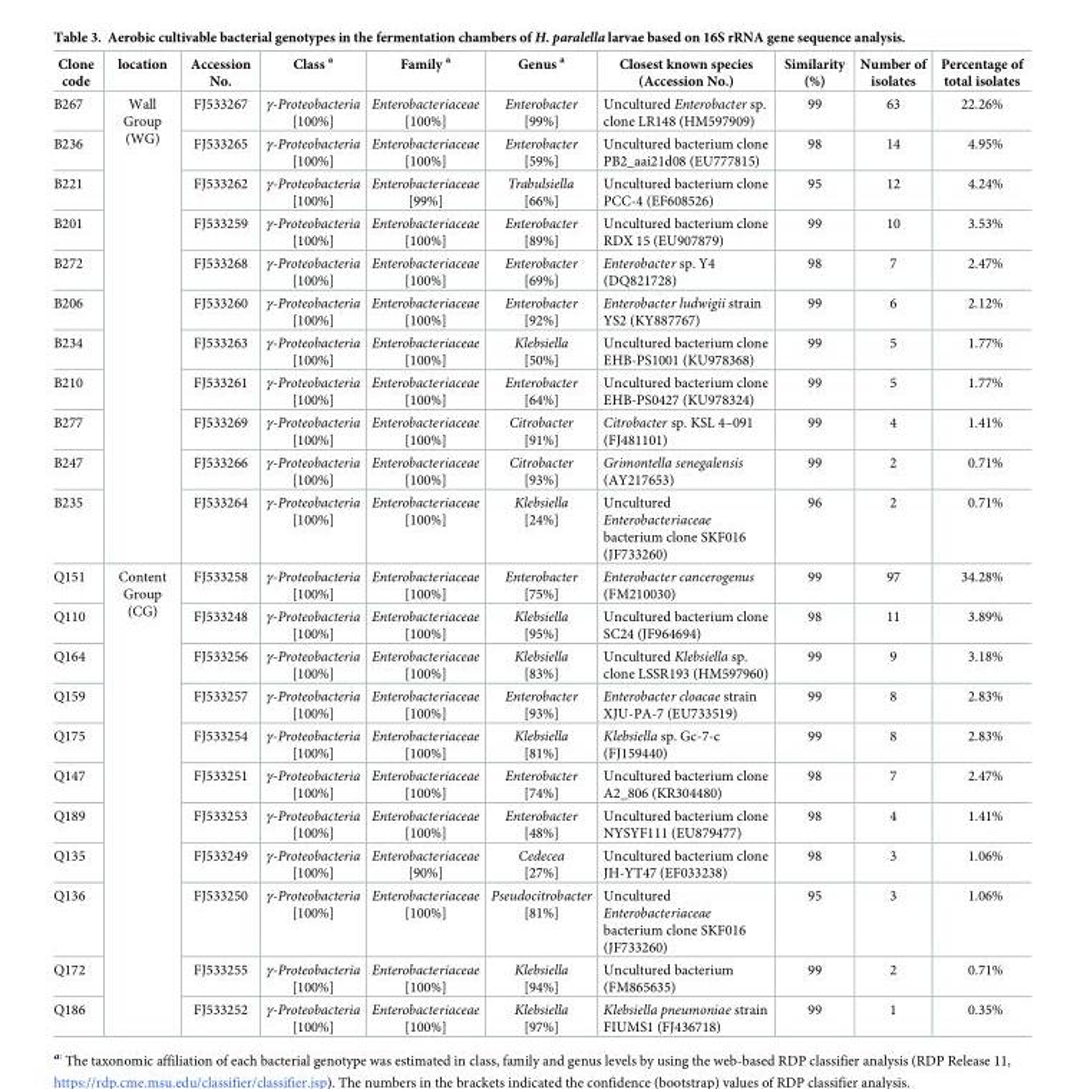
<table><thead><tr><td>Clone code</td><td>location</td><td>Accession No.</td><td>Class <sup>a</sup></td><td>Family <sup>a</sup></td><td>Genus <sup>a</sup></td><td>Closest known species (Accession No.)</td><td>Similarity (%)</td><td>Number of isolates</td><td>Percentage of total isolates</td></tr></thead><tbody><tr><td>B267</td><td rowspan="11">Wall Group (WG)</td><td>FJ533267</td><td>γ-Proteobacteria [100%]</td><td>Enterobacteriaceae [100%]</td><td>Enterobacter [99%]</td><td>Uncultured Enterobacter sp. clone LR148 (HM597909)</td><td>99</td><td>63</td><td>22.26%</td></tr><tr><td>B236</td><td>FJ533265</td><td>γ-Proteobacteria [100%]</td><td>Enterobacteriaceae [100%]</td><td>Enterobacter [59%]</td><td>Uncultured bacterium clone PB2_aai21d08 (EU777815)</td><td>98</td><td>14</td><td>4.95%</td></tr><tr><td>B221</td><td>FJ533262</td><td>γ-Proteobacteria [100%]</td><td>Enterobacteriaceae [99%]</td><td>Trabulsiella [66%]</td><td>Uncultured bacterium clone PCC-4 (EF608526)</td><td>95</td><td>12</td><td>4.24%</td></tr><tr><td>B201</td><td>FJ533259</td><td>γ-Proteobacteria [100%]</td><td>Enterobacteriaceae [100%]</td><td>Enterobacter [89%]</td><td>Uncultured bacterium clone RDX 15 (EU907879)</td><td>99</td><td>10</td><td>3.53%</td></tr><tr><td>B272</td><td>FJ533268</td><td>γ-Proteobacteria [100%]</td><td>Enterobacteriaceae [100%]</td><td>Enterobacter [69%]</td><td>Enterobacter sp. Y4 (DQ821728)</td><td>98</td><td>7</td><td>2.47%</td></tr><tr><td>B206</td><td>FJ533260</td><td>γ-Proteobacteria [100%]</td><td>Enterobacteriaceae [100%]</td><td>Enterobacter [92%]</td><td>Enterobacter ludwigii strain YS2 (KY887767)</td><td>99</td><td>6</td><td>2.12%</td></tr><tr><td>B234</td><td>FJ533263</td><td>γ-Proteobacteria [100%]</td><td>Enterobacteriaceae [100%]</td><td>Klebsiella [50%]</td><td>Uncultured bacterium clone EHB-PS1001 (KU978368)</td><td>99</td><td>5</td><td>1.77%</td></tr><tr><td>B210</td><td>FJ533261</td><td>γ-Proteobacteria [100%]</td><td>Enterobacteriaceae [100%]</td><td>Enterobacter [64%]</td><td>Uncultured bacterium clone EHB-PS0427 (KU978324)</td><td>99</td><td>5</td><td>1.77%</td></tr><tr><td>B277</td><td>FJ533269</td><td>γ-Proteobacteria [100%]</td><td>Enterobacteriaceae [100%]</td><td>Citrobacter [91%]</td><td>Citrobacter sp. KSL 4–091 (FJ481101)</td><td>99</td><td>4</td><td>1.41%</td></tr><tr><td>B247</td><td>FJ533266</td><td>γ-Proteobacteria [100%]</td><td>Enterobacteriaceae [100%]</td><td>Citrobacter [93%]</td><td>Grimontella senegalensis (AY217653)</td><td>99</td><td>2</td><td>0.71%</td></tr><tr><td>B235</td><td>FJ533264</td><td>γ-Proteobacteria [100%]</td><td>Enterobacteriaceae [100%]</td><td>Klebsiella [24%]</td><td>Uncultured Enterobacteriaceae bacterium clone SKF016 (JF733260)</td><td>96</td><td>2</td><td>0.71%</td></tr><tr><td>Q151</td><td rowspan="11">Content Group (CG)</td><td>FJ533258</td><td>γ-Proteobacteria [100%]</td><td>Enterobacteriaceae [100%]</td><td>Enterobacter [75%]</td><td>Enterobacter cancerogenus (FM210030)</td><td>99</td><td>97</td><td>34.28%</td></tr><tr><td>Q110</td><td>FJ533248</td><td>γ-Proteobacteria [100%]</td><td>Enterobacteriaceae [100%]</td><td>Klebsiella [95%]</td><td>Uncultured bacterium clone SC24 (JF964694)</td><td>98</td><td>11</td><td>3.89%</td></tr><tr><td>Q164</td><td>FJ533256</td><td>γ-Proteobacteria [100%]</td><td>Enterobacteriaceae [100%]</td><td>Klebsiella [83%]</td><td>Uncultured Klebsiella sp. clone LSSR193 (HM597960)</td><td>99</td><td>9</td><td>3.18%</td></tr><tr><td>Q159</td><td>FJ533257</td><td>γ-Proteobacteria [100%]</td><td>Enterobacteriaceae [100%]</td><td>Enterobacter [93%]</td><td>Enterobacter cloacae strain XJU-PA-7 (EU733519)</td><td>99</td><td>8</td><td>2.83%</td></tr><tr><td>Q175</td><td>FJ533254</td><td>γ-Proteobacteria [100%]</td><td>Enterobacteriaceae [100%]</td><td>Klebsiella [81%]</td><td>Klebsiella sp. Gc-7-c (FJ159440)</td><td>99</td><td>8</td><td>2.83%</td></tr><tr><td>Q147</td><td>FJ533251</td><td>γ-Proteobacteria [100%]</td><td>Enterobacteriaceae [100%]</td><td>Enterobacter [74%]</td><td>Uncultured bacterium clone A2_806 (KR304480)</td><td>98</td><td>7</td><td>2.47%</td></tr><tr><td>Q189</td><td>FJ533253</td><td>γ-Proteobacteria [100%]</td><td>Enterobacteriaceae [100%]</td><td>Enterobacter [48%]</td><td>Uncultured bacterium clone NYSYF111 (EU879477)</td><td>98</td><td>4</td><td>1.41%</td></tr><tr><td>Q135</td><td>FJ533249</td><td>γ-Proteobacteria [100%]</td><td>Enterobacteriaceae [90%]</td><td>Cedecea [27%]</td><td>Uncultured bacterium clone JH-YT47 (EF033238)</td><td>98</td><td>3</td><td>1.06%</td></tr><tr><td>Q136</td><td>FJ533250</td><td>γ-Proteobacteria [100%]</td><td>Enterobacteriaceae [100%]</td><td>Pseudocitrobacter [81%]</td><td>Uncultured Enterobacteriaceae bacterium clone SKF016 (JF733260)</td><td>95</td><td>3</td><td>1.06%</td></tr><tr><td>Q172</td><td>FJ533255</td><td>γ-Proteobacteria [100%]</td><td>Enterobacteriaceae [100%]</td><td>Klebsiella [94%]</td><td>Uncultured bacterium (FM865635)</td><td>99</td><td>2</td><td>0.71%</td></tr><tr><td>Q186</td><td>FJ533252</td><td>γ-Proteobacteria [100%]</td><td>Enterobacteriaceae [100%]</td><td>Klebsiella [97%]</td><td>Klebsiella pneumoniae strain FIUMS1 (FJ436718)</td><td>99</td><td>1</td><td>0.35%</td></tr></tbody></table>